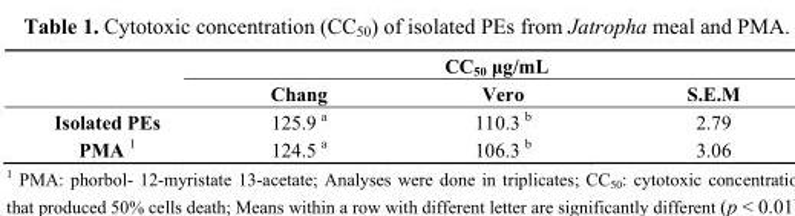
<table><thead><tr><td rowspan="2"></td><td colspan="3">CC<sub>50</sub> μg/mL</td></tr><tr><td>Chang</td><td>Vero</td><td>S.E.M</td></tr></thead><tbody><tr><td>Isolated PEs</td><td>125.9 <sup>a</sup></td><td>110.3 <sup>b</sup></td><td>2.79</td></tr><tr><td>PMA <sup>1</sup></td><td>124.5 <sup>a</sup></td><td>106.3 <sup>b</sup></td><td>3.06</td></tr></tbody></table>